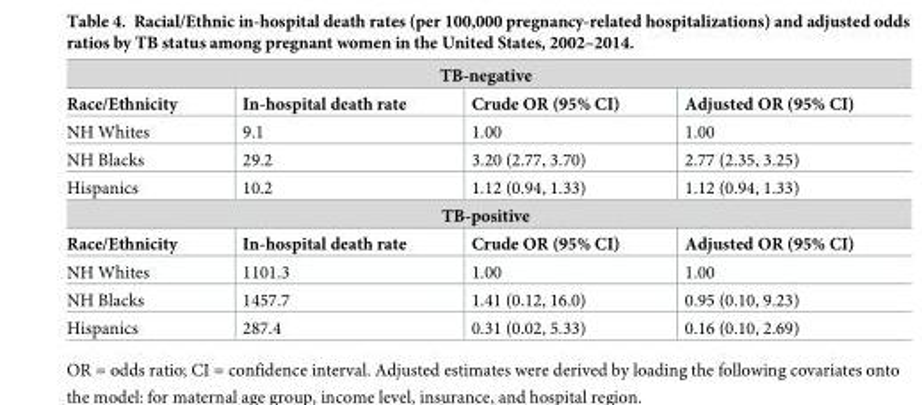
<table><tbody><tr><td colspan="4">TB-negative</td></tr><tr><td>Race/Ethnicity</td><td>In-hospital death rate</td><td>Crude OR (95% CI)</td><td>Adjusted OR (95% CI)</td></tr><tr><td>NH Whites</td><td>9.1</td><td>1.00</td><td>1.00</td></tr><tr><td>NH Blacks</td><td>29.2</td><td>3.20 (2.77, 3.70)</td><td>2.77 (2.35, 3.25)</td></tr><tr><td>Hispanics</td><td>10.2</td><td>1.12 (0.94, 1.33)</td><td>1.12 (0.94, 1.33)</td></tr><tr><td colspan="4">TB-positive</td></tr><tr><td>Race/Ethnicity</td><td>In-hospital death rate</td><td>Crude OR (95% CI)</td><td>Adjusted OR (95% CI)</td></tr><tr><td>NH Whites</td><td>1101.3</td><td>1.00</td><td>1.00</td></tr><tr><td>NH Blacks</td><td>1457.7</td><td>1.41 (0.12, 16.0)</td><td>0.95 (0.10, 9.23)</td></tr><tr><td>Hispanics</td><td>287.4</td><td>0.31 (0.02, 5.33)</td><td>0.16 (0.10, 2.69)</td></tr></tbody></table>